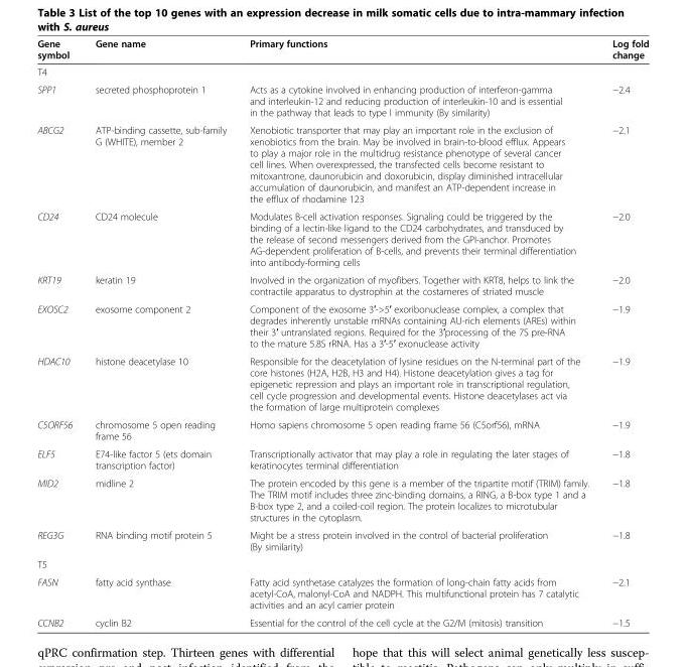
<table><thead><tr><td>Gene symbol</td><td>Gene name</td><td>Primary functions</td><td>Log fold change</td></tr></thead><tbody><tr><td colspan="4">T4</td></tr><tr><td>SPP1</td><td>secreted phosphoprotein 1</td><td>Acts as a cytokine involved in enhancing production of interferon-gamma and interleukin-12 and reducing production of interleukin-10 and is essential in the pathway that leads to type I immunity (By similarity)</td><td>−2.4</td></tr><tr><td>ABCG2</td><td>ATP-binding cassette, sub-family G (WHITE), member 2</td><td>Xenobiotic transporter that may play an important role in the exclusion of xenobiotics from the brain. May be involved in brain-to-blood efflux. Appears to play a major role in the multidrug resistance phenotype of several cancer cell lines. When overexpressed, the transfected cells become resistant to mitoxantrone, daunorubicin and doxorubicin, display diminished intracellular accumulation of daunorubicin, and manifest an ATP-dependent increase in the efflux of rhodamine 123</td><td>−2.1</td></tr><tr><td>CD24</td><td>CD24 molecule</td><td>Modulates B-cell activation responses. Signaling could be triggered by the binding of a lectin-like ligand to the CD24 carbohydrates, and transduced by the release of second messengers derived from the GPI-anchor. Promotes AG-dependent proliferation of B-cells, and prevents their terminal differentiation into antibody-forming cells</td><td>−2.0</td></tr><tr><td>KRT19</td><td>keratin 19</td><td>Involved in the organization of myofibers. Together with KRT8, helps to link the contractile apparatus to dystrophin at the costameres of striated muscle</td><td>−2.0</td></tr><tr><td>EXOSC2</td><td>exosome component 2</td><td>Component of the exosome 3′-&gt;5′ exoribonuclease complex, a complex that degrades inherently unstable mRNAs containing AU-rich elements (AREs) within their 3′ untranslated regions. Required for the 3′processing of the 7S pre-RNA to the mature 5.8S rRNA. Has a 3′-5′ exonuclease activity</td><td>−1.9</td></tr><tr><td>HDAC10</td><td>histone deacetylase 10</td><td>Responsible for the deacetylation of lysine residues on the N-terminal part of the core histones (H2A, H2B, H3 and H4). Histone deacetylation gives a tag for epigenetic repression and plays an important role in transcriptional regulation, cell cycle progression and developmental events. Histone deacetylases act via the formation of large multiprotein complexes</td><td>−1.9</td></tr><tr><td>C5ORF56</td><td>chromosome 5 open reading frame 56</td><td>Homo sapiens chromosome 5 open reading frame 56 (C5orf56), mRNA</td><td>−1.9</td></tr><tr><td>ELF5</td><td>E74-like factor 5 (ets domain transcription factor)</td><td>Transcriptionally activator that may play a role in regulating the later stages of keratinocytes terminal differentiation</td><td>−1.8</td></tr><tr><td>MID2</td><td>midline 2</td><td>The protein encoded by this gene is a member of the tripartite motif (TRIM) family. The TRIM motif includes three zinc-binding domains, a RING, a B-box type 1 and a B-box type 2, and a coiled-coil region. The protein localizes to microtubular structures in the cytoplasm.</td><td>−1.8</td></tr><tr><td>REG3G</td><td>RNA binding motif protein 5</td><td>Might be a stress protein involved in the control of bacterial proliferation (By similarity)</td><td>−1.8</td></tr><tr><td colspan="4">T5</td></tr><tr><td>FASN</td><td>fatty acid synthase</td><td>Fatty acid synthetase catalyzes the formation of long-chain fatty acids from acetyl-CoA, malonyl-CoA and NADPH. This multifunctional protein has 7 catalytic activities and an acyl carrier protein</td><td>−2.1</td></tr><tr><td>CCNB2</td><td>cyclin B2</td><td>Essential for the control of the cell cycle at the G2/M (mitosis) transition</td><td>−1.5</td></tr></tbody></table>